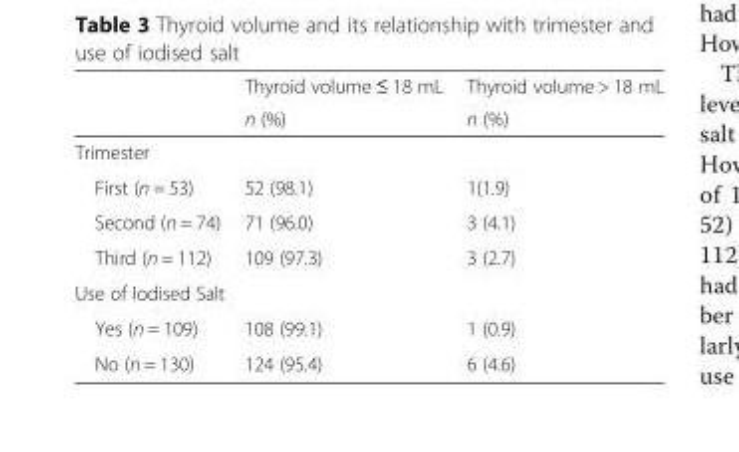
<table><thead><tr><td rowspan="2"></td><td rowspan="2">Thyroid volume ≤ 18 mL n (%)</td><td rowspan="2">Thyroid volume &gt; 18 mL n (%)</td></tr><tr></tr></thead><tbody><tr><td colspan="3">Trimester</td></tr><tr><td>First (n = 53)</td><td>52 (98.1)</td><td>1(1.9)</td></tr><tr><td>Second (n = 74)</td><td>71 (96.0)</td><td>3 (4.1)</td></tr><tr><td>Third (n = 112)</td><td>109 (97.3)</td><td>3 (2.7)</td></tr><tr><td colspan="3">Use of Iodised Salt</td></tr><tr><td>Yes (n = 109)</td><td>108 (99.1)</td><td>1 (0.9)</td></tr><tr><td>No (n = 130)</td><td>124 (95.4)</td><td>6 (4.6)</td></tr></tbody></table>